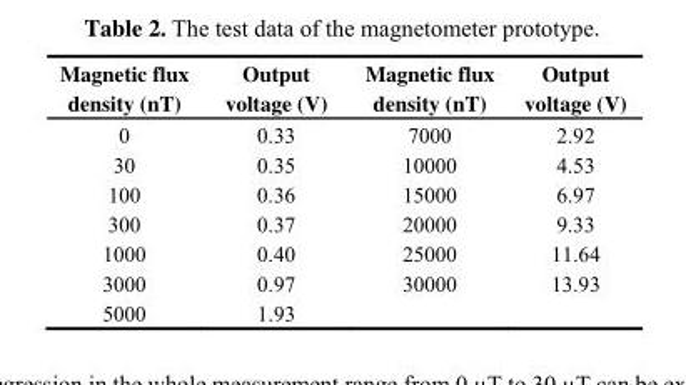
<table><thead><tr><td>Magnetic flux density (nT)</td><td>Output voltage (V)</td><td>Magnetic flux density (nT)</td><td>Output voltage (V)</td></tr></thead><tbody><tr><td>0</td><td>0.33</td><td>7000</td><td>2.92</td></tr><tr><td>30</td><td>0.35</td><td>10000</td><td>4.53</td></tr><tr><td>100</td><td>0.36</td><td>15000</td><td>6.97</td></tr><tr><td>300</td><td>0.37</td><td>20000</td><td>9.33</td></tr><tr><td>1000</td><td>0.40</td><td>25000</td><td>11.64</td></tr><tr><td>3000</td><td>0.97</td><td>30000</td><td>13.93</td></tr><tr><td>5000</td><td>1.93</td><td></td><td></td></tr></tbody></table>